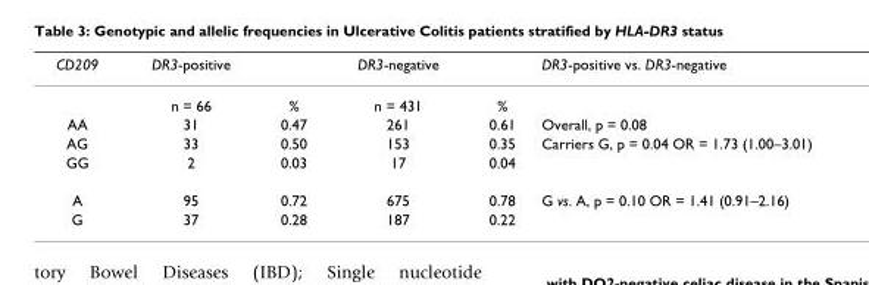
<table><thead><tr><td>CD209</td><td>DR3-positive</td><td></td><td>DR3-negative</td><td></td><td>DR3-positive vs. DR3-negative</td></tr></thead><tbody><tr><td></td><td>n = 66</td><td>%</td><td>n = 431</td><td>%</td><td></td></tr><tr><td>AA</td><td>31</td><td>0.47</td><td>261</td><td>0.61</td><td>Overall, p = 0.08</td></tr><tr><td>AG</td><td>33</td><td>0.50</td><td>153</td><td>0.35</td><td>Carriers G, p = 0.04 OR = 1.73 (1.00–3.01)</td></tr><tr><td>GG</td><td>2</td><td>0.03</td><td>17</td><td>0.04</td><td></td></tr><tr><td>A</td><td>95</td><td>0.72</td><td>675</td><td>0.78</td><td>G vs. A, p = 0.10 OR = 1.41 (0.91–2.16)</td></tr><tr><td>G</td><td>37</td><td>0.28</td><td>187</td><td>0.22</td><td></td></tr></tbody></table>